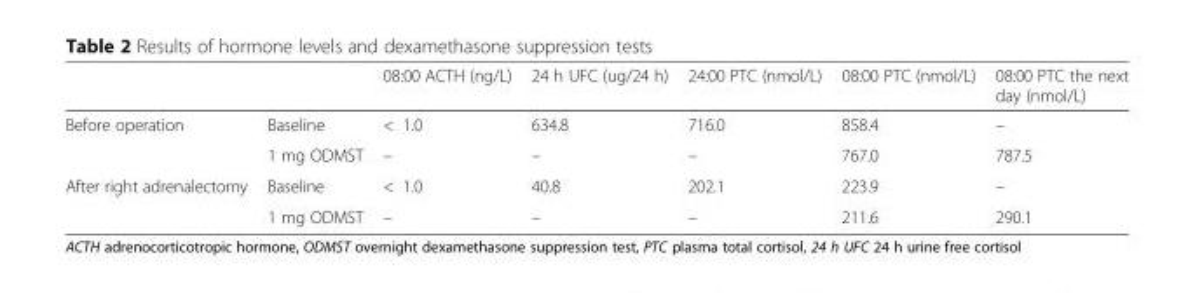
<table><thead><tr><td></td><td></td><td>08:00 ACTH (ng/L)</td><td>24 h UFC (ug/24 h)</td><td>24:00 PTC (nmol/L)</td><td>08:00 PTC (nmol/L)</td><td>08:00 PTC the next day (nmol/L)</td></tr></thead><tbody><tr><td rowspan="2">Before operation</td><td>Baseline</td><td>&lt; 1.0</td><td>634.8</td><td>716.0</td><td>858.4</td><td>–</td></tr><tr><td>1 mg ODMST</td><td>–</td><td>–</td><td>–</td><td>767.0</td><td>787.5</td></tr><tr><td rowspan="2">After right adrenalectomy</td><td>Baseline</td><td>&lt; 1.0</td><td>40.8</td><td>202.1</td><td>223.9</td><td>–</td></tr><tr><td>1 mg ODMST</td><td>–</td><td>–</td><td>–</td><td>211.6</td><td>290.1</td></tr></tbody></table>